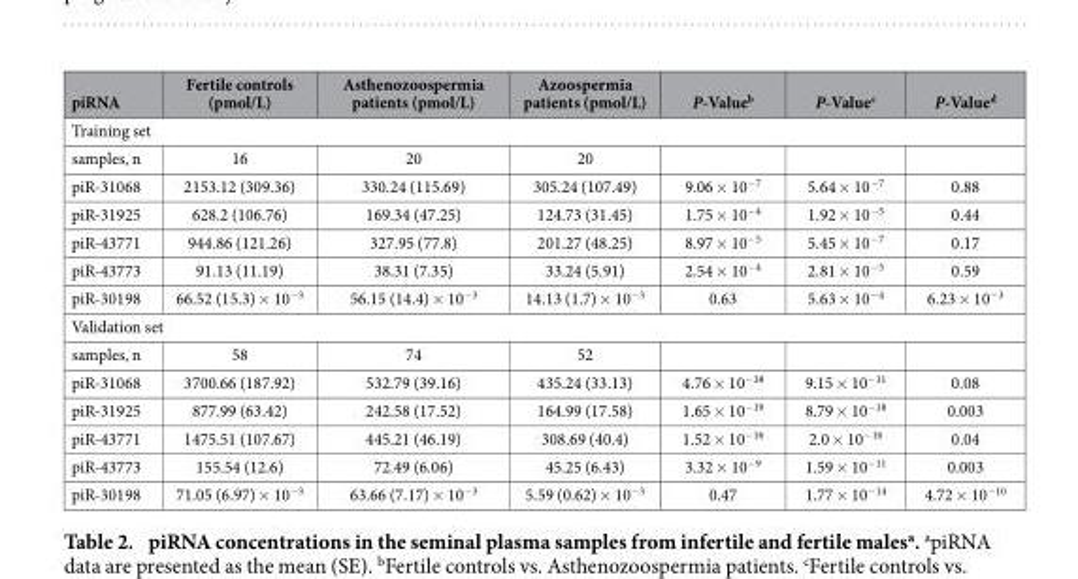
<table><thead><tr><td>piRNA</td><td>Fertile controls (pmol/L)</td><td>Asthenozoospermia patients (pmol/L)</td><td>Azoospermia patients (pmol/L)</td><td>P-Value<sup>b</sup></td><td>P-Value<sup>c</sup></td><td>P-Value<sup>d</sup></td></tr></thead><tbody><tr><td colspan="7">Training set</td></tr><tr><td>samples, n</td><td>16</td><td>20</td><td>20</td><td></td><td></td><td></td></tr><tr><td>piR-31068</td><td>2153.12 (309.36)</td><td>330.24 (115.69)</td><td>305.24 (107.49)</td><td>9.06 × 10<sup>−7</sup></td><td>5.64 × 10<sup>−7</sup></td><td>0.88</td></tr><tr><td>piR-31925</td><td>628.2 (106.76)</td><td>169.34 (47.25)</td><td>124.73 (31.45)</td><td>1.75 × 10<sup>−4</sup></td><td>1.92 × 10<sup>−5</sup></td><td>0.44</td></tr><tr><td>piR-43771</td><td>944.86 (121.26)</td><td>327.95 (77.8)</td><td>201.27 (48.25)</td><td>8.97 × 10<sup>−5</sup></td><td>5.45 × 10<sup>−7</sup></td><td>0.17</td></tr><tr><td>piR-43773</td><td>91.13 (11.19)</td><td>38.31 (7.35)</td><td>33.24 (5.91)</td><td>2.54 × 10<sup>−4</sup></td><td>2.81 × 10<sup>−5</sup></td><td>0.59</td></tr><tr><td>piR-30198</td><td>66.52 (15.3) × 10<sup>−3</sup></td><td>56.15 (14.4) × 10<sup>−3</sup></td><td>14.13 (1.7) × 10<sup>−3</sup></td><td>0.63</td><td>5.63 × 10<sup>−4</sup></td><td>6.23 × 10<sup>−3</sup></td></tr><tr><td colspan="7">Validation set</td></tr><tr><td>samples, n</td><td>58</td><td>74</td><td>52</td><td></td><td></td><td></td></tr><tr><td>piR-31068</td><td>3700.66 (187.92)</td><td>532.79 (39.16)</td><td>435.24 (33.13)</td><td>4.76 × 10<sup>−38</sup></td><td>9.15 × 10<sup>−31</sup></td><td>0.08</td></tr><tr><td>piR-31925</td><td>877.99 (63.42)</td><td>242.58 (17.52)</td><td>164.99 (17.58)</td><td>1.65 × 10<sup>−19</sup></td><td>8.79 × 10<sup>−18</sup></td><td>0.003</td></tr><tr><td>piR-43771</td><td>1475.51 (107.67)</td><td>445.21 (46.19)</td><td>308.69 (40.4)</td><td>1.52 × 10<sup>−16</sup></td><td>2.0 × 10<sup>−16</sup></td><td>0.04</td></tr><tr><td>piR-43773</td><td>155.54 (12.6)</td><td>72.49 (6.06)</td><td>45.25 (6.43)</td><td>3.32 × 10<sup>−9</sup></td><td>1.59 × 10<sup>−11</sup></td><td>0.003</td></tr><tr><td>piR-30198</td><td>71.05 (6.97) × 10<sup>−3</sup></td><td>63.66 (7.17) × 10<sup>−3</sup></td><td>5.59 (0.62) × 10<sup>−3</sup></td><td>0.47</td><td>1.77 × 10<sup>−14</sup></td><td>4.72 × 10<sup>−10</sup></td></tr></tbody></table>